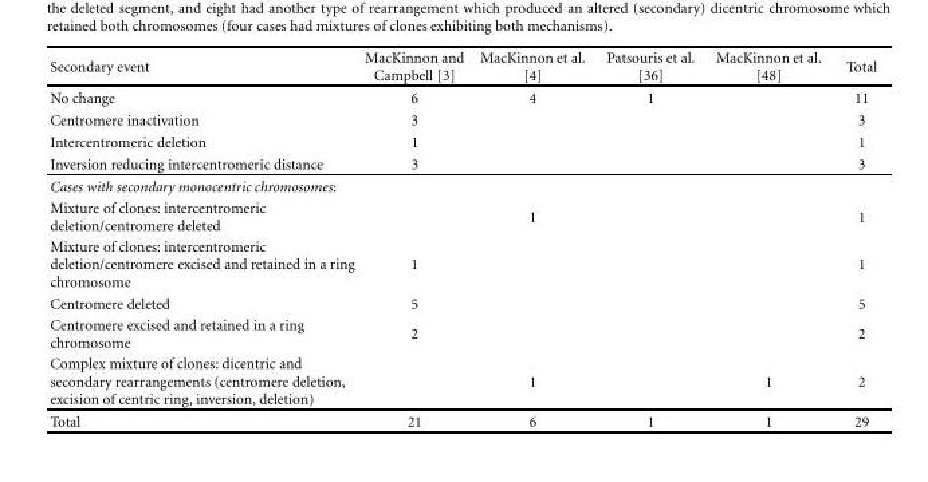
<table><thead><tr><td>Secondary event</td><td>MacKinnon and Campbell [3]</td><td>MacKinnon et al. [4]</td><td>Patsouris et al. [36]</td><td>MacKinnon et al. [48]</td><td>Total</td></tr></thead><tbody><tr><td>No change</td><td>6</td><td>4</td><td>1</td><td></td><td>11</td></tr><tr><td>Centromere inactivation</td><td>3</td><td></td><td></td><td></td><td>3</td></tr><tr><td>Intercentromeric deletion</td><td>1</td><td></td><td></td><td></td><td>1</td></tr><tr><td>Inversion reducing intercentromeric distance</td><td>3</td><td></td><td></td><td></td><td>3</td></tr><tr><td colspan="6">Cases with secondary monocentric chromosomes:</td></tr><tr><td>Mixture of clones: intercentromeric deletion/centromere deleted</td><td></td><td>1</td><td></td><td></td><td>1</td></tr><tr><td>Mixture of clones: intercentromeric deletion/centromere excised and retained in a ring chromosome</td><td>1</td><td></td><td></td><td></td><td>1</td></tr><tr><td>Centromere deleted</td><td>5</td><td></td><td></td><td></td><td>5</td></tr><tr><td>Centromere excised and retained in a ring chromosome</td><td>2</td><td></td><td></td><td></td><td>2</td></tr><tr><td>Complex mixture of clones: dicentric and secondary rearrangements (centromere deletion, excision of centric ring, inversion, deletion)</td><td></td><td>1</td><td></td><td>1</td><td>2</td></tr><tr><td>Total</td><td>21</td><td>6</td><td>1</td><td>1</td><td>29</td></tr></tbody></table>